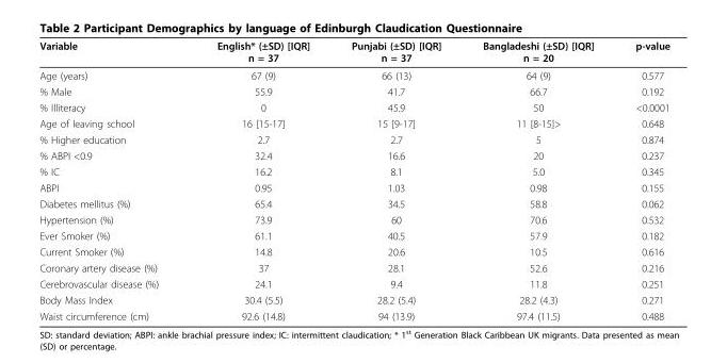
<table><thead><tr><td>Variable</td><td>English* (±SD) [IQR] n = 37</td><td>Punjabi (±SD) [IQR] n = 37</td><td>Bangladeshi (±SD) [IQR] n = 20</td><td>p-value</td></tr></thead><tbody><tr><td>Age (years)</td><td>67 (9)</td><td>66 (13)</td><td>64 (9)</td><td>0.577</td></tr><tr><td>% Male</td><td>55.9</td><td>41.7</td><td>66.7</td><td>0.192</td></tr><tr><td>% Illiteracy</td><td>0</td><td>45.9</td><td>50</td><td>&lt;0.0001</td></tr><tr><td>Age of leaving school</td><td>16 [15-17]</td><td>15 [9-17]</td><td>11 [8-15]&gt;</td><td>0.648</td></tr><tr><td>% Higher education</td><td>2.7</td><td>2.7</td><td>5</td><td>0.874</td></tr><tr><td>% ABPI &lt;0.9</td><td>32.4</td><td>16.6</td><td>20</td><td>0.237</td></tr><tr><td>% IC</td><td>16.2</td><td>8.1</td><td>5.0</td><td>0.345</td></tr><tr><td>ABPI</td><td>0.95</td><td>1.03</td><td>0.98</td><td>0.155</td></tr><tr><td>Diabetes mellitus (%)</td><td>65.4</td><td>34.5</td><td>58.8</td><td>0.062</td></tr><tr><td>Hypertension (%)</td><td>73.9</td><td>60</td><td>70.6</td><td>0.532</td></tr><tr><td>Ever Smoker (%)</td><td>61.1</td><td>40.5</td><td>57.9</td><td>0.182</td></tr><tr><td>Current Smoker (%)</td><td>14.8</td><td>20.6</td><td>10.5</td><td>0.616</td></tr><tr><td>Coronary artery disease (%)</td><td>37</td><td>28.1</td><td>52.6</td><td>0.216</td></tr><tr><td>Cerebrovascular disease (%)</td><td>24.1</td><td>9.4</td><td>11.8</td><td>0.251</td></tr><tr><td>Body Mass Index</td><td>30.4 (5.5)</td><td>28.2 (5.4)</td><td>28.2 (4.3)</td><td>0.271</td></tr><tr><td>Waist circumference (cm)</td><td>92.6 (14.8)</td><td>94 (13.9)</td><td>97.4 (11.5)</td><td>0.488</td></tr></tbody></table>